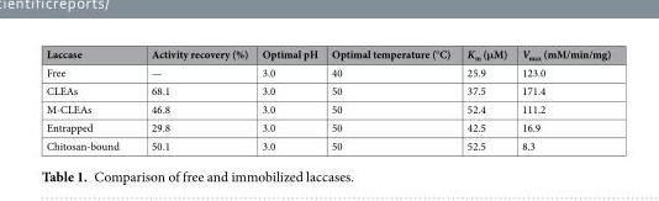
<table><thead><tr><td>Laccase</td><td>Activity recovery (%)</td><td>Optimal pH</td><td>Optimal temperature (°C)</td><td>K<sub>m</sub> (μM)</td><td>V<sub>max</sub> (mM/min/mg)</td></tr></thead><tbody><tr><td>Free</td><td>—</td><td>3.0</td><td>40</td><td>25.9</td><td>123.0</td></tr><tr><td>CLEAs</td><td>68.1</td><td>3.0</td><td>50</td><td>37.5</td><td>171.4</td></tr><tr><td>M-CLEAs</td><td>46.8</td><td>3.0</td><td>50</td><td>52.4</td><td>111.2</td></tr><tr><td>Entrapped</td><td>29.8</td><td>3.0</td><td>50</td><td>42.5</td><td>16.9</td></tr><tr><td>Chitosan-bound</td><td>50.1</td><td>3.0</td><td>50</td><td>52.5</td><td>8.3</td></tr></tbody></table>